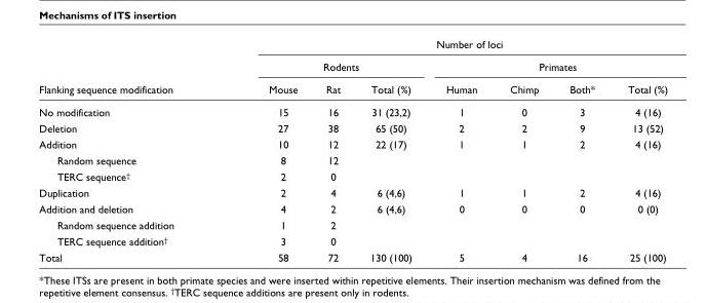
<table><thead><tr><td rowspan="3">Flanking sequence modification</td><td colspan="7">Number of loci</td></tr><tr><td colspan="3">Rodents</td><td colspan="4">Primates</td></tr><tr><td>Mouse</td><td>Rat</td><td>Total (%)</td><td>Human</td><td>Chimp</td><td>Both*</td><td>Total (%)</td></tr></thead><tbody><tr><td>No modification</td><td>15</td><td>16</td><td>31 (23,2)</td><td>1</td><td>0</td><td>3</td><td>4 (16)</td></tr><tr><td>Deletion</td><td>27</td><td>38</td><td>65 (50)</td><td>2</td><td>2</td><td>9</td><td>13 (52)</td></tr><tr><td>Addition</td><td>10</td><td>12</td><td>22 (17)</td><td>1</td><td>1</td><td>2</td><td>4 (16)</td></tr><tr><td>Random sequence</td><td>8</td><td>12</td><td></td><td></td><td></td><td></td><td></td></tr><tr><td>TERC sequence<sup>†</sup></td><td>2</td><td>0</td><td></td><td></td><td></td><td></td><td></td></tr><tr><td>Duplication</td><td>2</td><td>4</td><td>6 (4,6)</td><td>1</td><td>1</td><td>2</td><td>4 (16)</td></tr><tr><td>Addition and deletion</td><td>4</td><td>2</td><td>6 (4,6)</td><td>0</td><td>0</td><td>0</td><td>0 (0)</td></tr><tr><td>Random sequence addition</td><td>1</td><td>2</td><td></td><td></td><td></td><td></td><td></td></tr><tr><td>TERC sequence addition<sup>†</sup></td><td>3</td><td>0</td><td></td><td></td><td></td><td></td><td></td></tr><tr><td>Total</td><td>58</td><td>72</td><td>130 (100)</td><td>5</td><td>4</td><td>16</td><td>25 (100)</td></tr></tbody></table>